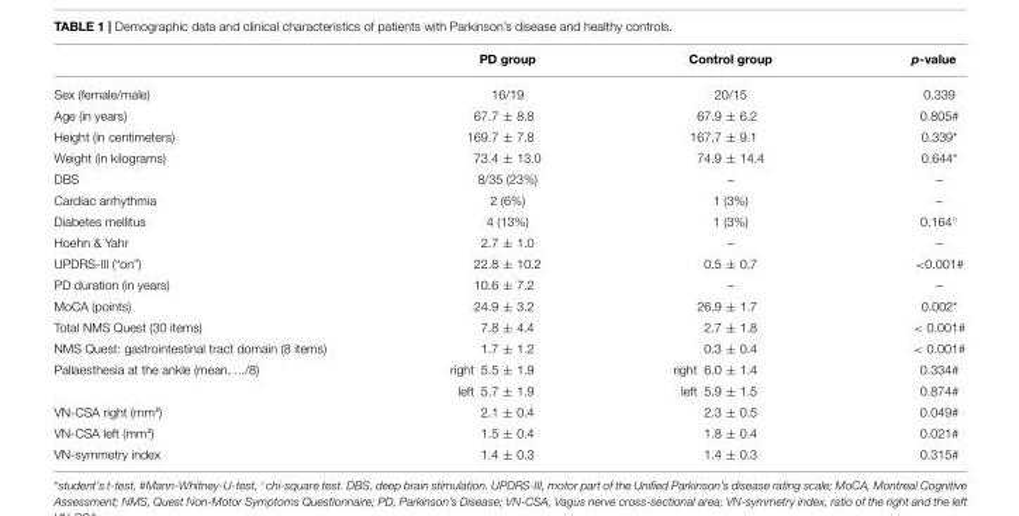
<table><thead><tr><td></td><td>PD group</td><td>Control group</td><td>p-value</td></tr></thead><tbody><tr><td>Sex (female/male)</td><td>16/19</td><td>20/15</td><td>0.339</td></tr><tr><td>Age (in years)</td><td>67.7 ± 8.8</td><td>67.9 ± 6.2</td><td>0.805#</td></tr><tr><td>Height (in centimeters)</td><td>169.7 ± 7.8</td><td>167.7 ± 9.1</td><td>0.339*</td></tr><tr><td>Weight (in kilograms)</td><td>73.4 ± 13.0</td><td>74.9 ± 14.4</td><td>0.644*</td></tr><tr><td>DBS</td><td>8/35 (23%)</td><td>–</td><td>–</td></tr><tr><td>Cardiac arrhythmia</td><td>2 (6%)</td><td>1 (3%)</td><td>–</td></tr><tr><td>Diabetes mellitus</td><td>4 (13%)</td><td>1 (3%)</td><td>0.164◦</td></tr><tr><td>Hoehn &amp; Yahr</td><td>2.7 ± 1.0</td><td>–</td><td>–</td></tr><tr><td>UPDRS-III (“on”)</td><td>22.8 ± 10.2</td><td>0.5 ± 0.7</td><td>&lt;0.001#</td></tr><tr><td>PD duration (in years)</td><td>10.6 ± 7.2</td><td>–</td><td>–</td></tr><tr><td>MoCA (points)</td><td>24.9 ± 3.2</td><td>26.9 ± 1.7</td><td>0.002*</td></tr><tr><td>Total NMS Quest (30 items)</td><td>7.8 ± 4.4</td><td>2.7 ± 1.8</td><td>&lt; 0.001#</td></tr><tr><td>NMS Quest: gastrointestinal tract domain (8 items)</td><td>1.7 ± 1.2</td><td>0.3 ± 0.4</td><td>&lt; 0.001#</td></tr><tr><td rowspan="2">Pallaesthesia at the ankle (mean, .../8)</td><td>right 5.5 ± 1.9</td><td>right 6.0 ± 1.4</td><td>0.334#</td></tr><tr><td>left 5.7 ± 1.9</td><td>left 5.9 ± 1.5</td><td>0.874#</td></tr><tr><td>VN-CSA right (mm²)</td><td>2.1 ± 0.4</td><td>2.3 ± 0.5</td><td>0.049#</td></tr><tr><td>VN-CSA left (mm²)</td><td>1.5 ± 0.4</td><td>1.8 ± 0.4</td><td>0.021#</td></tr><tr><td>VN-symmetry index</td><td>1.4 ± 0.3</td><td>1.4 ± 0.3</td><td>0.315#</td></tr></tbody></table>